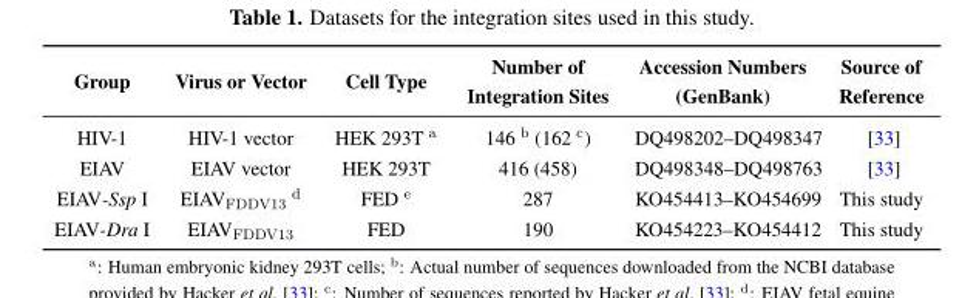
<table><thead><tr><td>Group</td><td>Virus or Vector</td><td>Cell Type</td><td>Number of Integration Sites</td><td>Accession Numbers (GenBank)</td><td>Source of Reference</td></tr></thead><tbody><tr><td>HIV-1</td><td>HIV-1 vector</td><td>HEK 293T <sup>a</sup></td><td>146 <sup>b</sup> (162 <sup>c</sup>)</td><td>DQ498202–DQ498347</td><td>[33]</td></tr><tr><td>EIAV</td><td>EIAV vector</td><td>HEK 293T</td><td>416 (458)</td><td>DQ498348–DQ498763</td><td>[33]</td></tr><tr><td>EIAV-Ssp I</td><td>EIAV<sub>FDDV13</sub> <sup>d</sup></td><td>FED <sup>e</sup></td><td>287</td><td>KO454413–KO454699</td><td>This study</td></tr><tr><td>EIAV-Dra I</td><td>EIAV<sub>FDDV13</sub></td><td>FED</td><td>190</td><td>KO454223–KO454412</td><td>This study</td></tr></tbody></table>